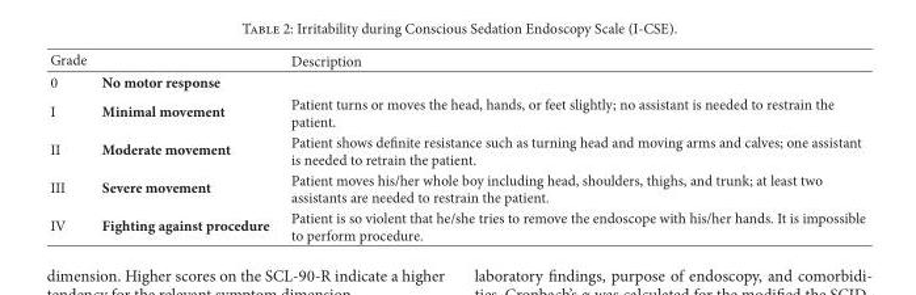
<table><thead><tr><td>Grade</td><td></td><td>Description</td></tr></thead><tbody><tr><td>0</td><td>No motor response</td><td></td></tr><tr><td>I</td><td>Minimal movement</td><td>Patient turns or moves the head, hands, or feet slightly; no assistant is needed to restrain the patient.</td></tr><tr><td>II</td><td>Moderate movement</td><td>Patient shows definite resistance such as turning head and moving arms and calves; one assistant is needed to retrain the patient.</td></tr><tr><td>III</td><td>Severe movement</td><td>Patient moves his/her whole boy including head, shoulders, thighs, and trunk; at least two assistants are needed to restrain the patient.</td></tr><tr><td>IV</td><td>Fighting against procedure</td><td>Patient is so violent that he/she tries to remove the endoscope with his/her hands. It is impossible to perform procedure.</td></tr></tbody></table>